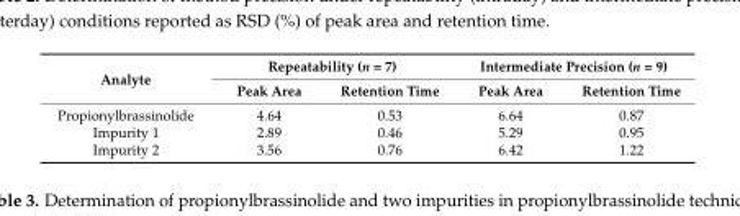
<table><thead><tr><td rowspan="2">Analyte</td><td colspan="2">Repeatability (n = 7)</td><td colspan="2">Intermediate Precision (n = 9)</td></tr><tr><td>Peak Area</td><td>Retention Time</td><td>Peak Area</td><td>Retention Time</td></tr></thead><tbody><tr><td>Propionylbrassinolide</td><td>4.64</td><td>0.53</td><td>6.64</td><td>0.87</td></tr><tr><td>Impurity 1</td><td>2.89</td><td>0.46</td><td>5.29</td><td>0.95</td></tr><tr><td>Impurity 2</td><td>3.56</td><td>0.76</td><td>6.42</td><td>1.22</td></tr></tbody></table>